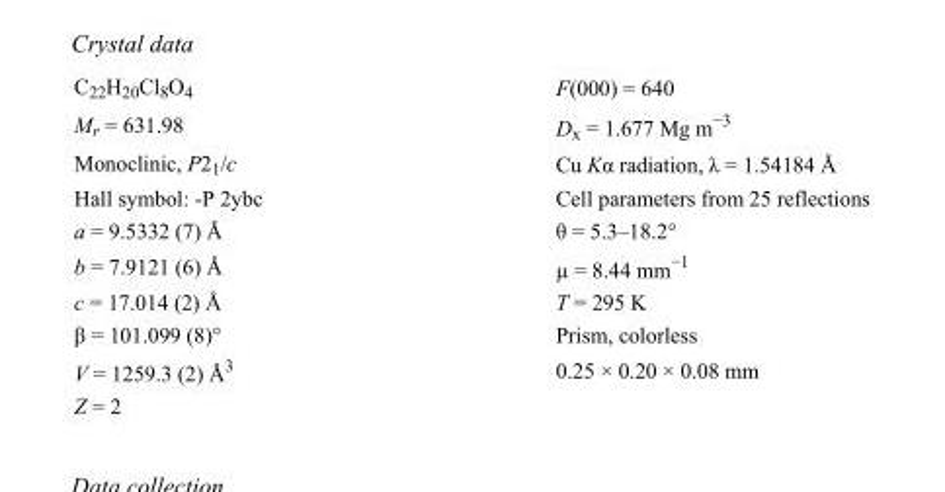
<table><tbody><tr><td>C<sub>22</sub>H<sub>20</sub>Cl<sub>8</sub>O<sub>4</sub></td><td>F(000) = 640</td></tr><tr><td>M<sub>r</sub> = 631.98</td><td>D<sub>x</sub> = 1.677 Mg m<sup>−3</sup></td></tr><tr><td>Monoclinic, P2<sub>1</sub>/c</td><td>Cu Kα radiation, λ = 1.54184 Å</td></tr><tr><td>Hall symbol: -P 2ybc</td><td>Cell parameters from 25 reflections</td></tr><tr><td>a = 9.5332 (7) Å</td><td>θ = 5.3–18.2°</td></tr><tr><td>b = 7.9121 (6) Å</td><td>µ = 8.44 mm<sup>−1</sup></td></tr><tr><td>c = 17.014 (2) Å</td><td>T = 295 K</td></tr><tr><td>β = 101.099 (8)°</td><td>Prism, colorless</td></tr><tr><td>V = 1259.3 (2) Å<sup>3</sup></td><td>0.25 × 0.20 × 0.08 mm</td></tr><tr><td>Z = 2</td><td></td></tr></tbody></table>